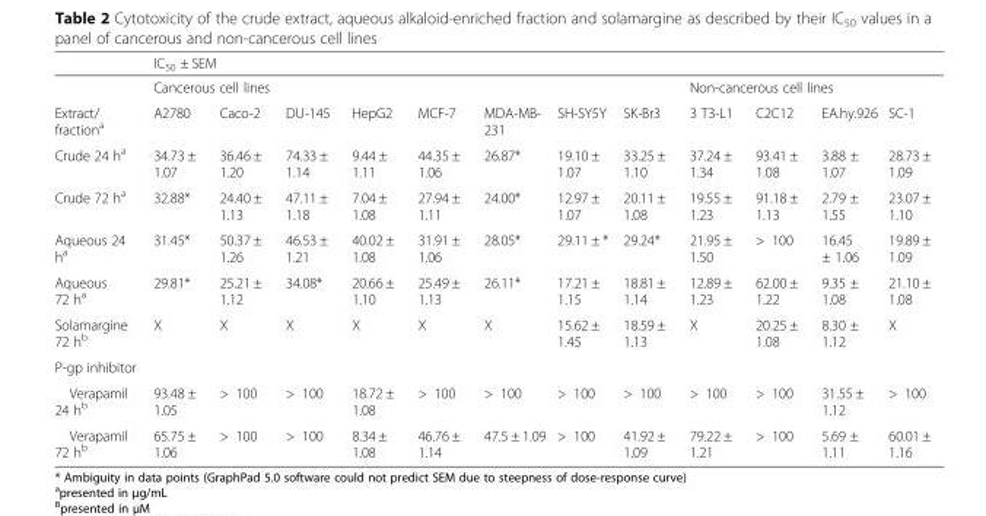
<table><thead><tr><td rowspan="3">Extract/ fraction<sup>a</sup></td><td colspan="12">IC<sub>50</sub> ± SEM</td></tr><tr><td colspan="8">Cancerous cell lines</td><td colspan="4">Non-cancerous cell lines</td></tr><tr><td>A2780</td><td>Caco-2</td><td>DU-145</td><td>HepG2</td><td>MCF-7</td><td>MDA-MB- 231</td><td>SH-SY5Y</td><td>SK-Br3</td><td>3 T3-L1</td><td>C2C12</td><td>EA.hy.926</td><td>SC-1</td></tr></thead><tbody><tr><td>Crude 24 h<sup>a</sup></td><td>34.73 ± 1.07</td><td>36.46 ± 1.20</td><td>74.33 ± 1.14</td><td>9.44 ± 1.11</td><td>44.35 ± 1.06</td><td>26.87*</td><td>19.10 ± 1.07</td><td>33.25 ± 1.10</td><td>37.24 ± 1.34</td><td>93.41 ± 1.08</td><td>3.88 ± 1.07</td><td>28.73 ± 1.09</td></tr><tr><td>Crude 72 h<sup>a</sup></td><td>32.88*</td><td>24.40 ± 1.13</td><td>47.11 ± 1.18</td><td>7.04 ± 1.08</td><td>27.94 ± 1.11</td><td>24.00*</td><td>12.97 ± 1.07</td><td>20.11 ± 1.08</td><td>19.55 ± 1.23</td><td>91.18 ± 1.13</td><td>2.79 ± 1.55</td><td>23.07 ± 1.10</td></tr><tr><td>Aqueous 24 h<sup>a</sup></td><td>31.45*</td><td>50.37 ± 1.26</td><td>46.53 ± 1.21</td><td>40.02 ± 1.08</td><td>31.91 ± 1.06</td><td>28.05*</td><td>29.11 ± *</td><td>29.24*</td><td>21.95 ± 1.50</td><td>&gt; 100</td><td>16.45 ± 1.06</td><td>19.89 ± 1.09</td></tr><tr><td>Aqueous 72 h<sup>a</sup></td><td>29.81*</td><td>25.21 ± 1.12</td><td>34.08*</td><td>20.66 ± 1.10</td><td>25.49 ± 1.13</td><td>26.11*</td><td>17.21 ± 1.15</td><td>18.81 ± 1.14</td><td>12.89 ± 1.23</td><td>62.00 ± 1.22</td><td>9.35 ± 1.08</td><td>21.10 ± 1.08</td></tr><tr><td>Solamargine 72 h<sup>b</sup></td><td>X</td><td>X</td><td>X</td><td>X</td><td>X</td><td>X</td><td>15.62 ± 1.45</td><td>18.59 ± 1.13</td><td>X</td><td>20.25 ± 1.08</td><td>8.30 ± 1.12</td><td>X</td></tr><tr><td colspan="13">P-gp inhibitor</td></tr><tr><td>Verapamil 24 h<sup>b</sup></td><td>93.48 ± 1.05</td><td>&gt; 100</td><td>&gt; 100</td><td>18.72 ± 1.08</td><td>&gt; 100</td><td>&gt; 100</td><td>&gt; 100</td><td>&gt; 100</td><td>&gt; 100</td><td>&gt; 100</td><td>31.55 ± 1.12</td><td>&gt; 100</td></tr><tr><td>Verapamil 72 h<sup>b</sup></td><td>65.75 ± 1.06</td><td>&gt; 100</td><td>&gt; 100</td><td>8.34 ± 1.08</td><td>46.76 ± 1.14</td><td>47.5 ± 1.09</td><td>&gt; 100</td><td>41.92 ± 1.09</td><td>79.22 ± 1.21</td><td>&gt; 100</td><td>5.69 ± 1.11</td><td>60.01 ± 1.16</td></tr></tbody></table>